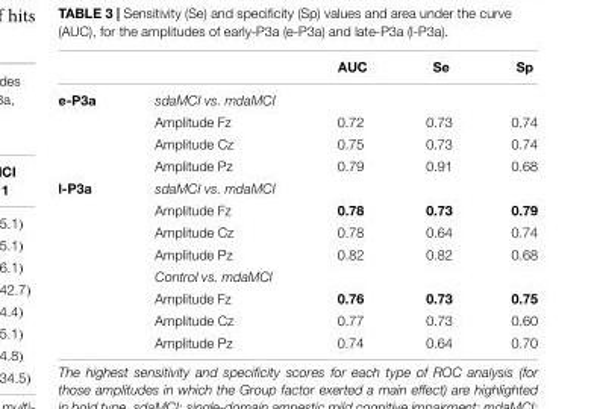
<table><thead><tr><td></td><td></td><td>AUC</td><td>Se</td><td>Sp</td></tr></thead><tbody><tr><td rowspan="4">e-P3a</td><td>sdaMCI vs. mdaMCI</td><td></td><td></td><td></td></tr><tr><td>Amplitude Fz</td><td>0.72</td><td>0.73</td><td>0.74</td></tr><tr><td>Amplitude Cz</td><td>0.75</td><td>0.73</td><td>0.74</td></tr><tr><td>Amplitude Pz</td><td>0.79</td><td>0.91</td><td>0.68</td></tr><tr><td rowspan="8">l-P3a</td><td>sdaMCI vs. mdaMCI</td><td></td><td></td><td></td></tr><tr><td>Amplitude Fz</td><td>0.78</td><td>0.73</td><td>0.79</td></tr><tr><td>Amplitude Cz</td><td>0.78</td><td>0.64</td><td>0.74</td></tr><tr><td>Amplitude Pz</td><td>0.82</td><td>0.82</td><td>0.68</td></tr><tr><td>Control vs. mdaMCI</td><td></td><td></td><td></td></tr><tr><td>Amplitude Fz</td><td>0.76</td><td>0.73</td><td>0.75</td></tr><tr><td>Amplitude Cz</td><td>0.77</td><td>0.73</td><td>0.60</td></tr><tr><td>Amplitude Pz</td><td>0.74</td><td>0.64</td><td>0.70</td></tr></tbody></table>